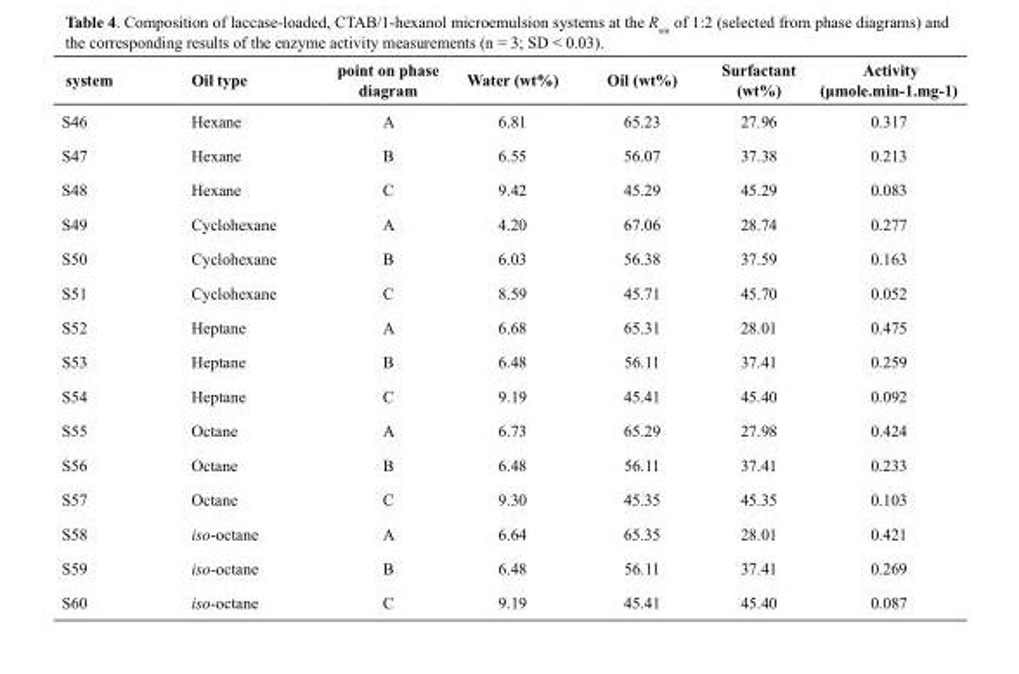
<table><thead><tr><td>Activity (μmole.min-1.mg-1)</td><td>Surfactant (wt%)</td><td>Oil (wt%)</td><td>Water (wt%)</td><td>point on phase diagram</td><td>Oil type</td><td>system</td></tr></thead><tbody><tr><td>0.317</td><td>27.96</td><td>65.23</td><td>6.81</td><td>A</td><td>Hexane</td><td>S46</td></tr><tr><td>0.213</td><td>37.38</td><td>56.07</td><td>6.55</td><td>B</td><td>Hexane</td><td>S47</td></tr><tr><td>0.083</td><td>45.29</td><td>45.29</td><td>9.42</td><td>C</td><td>Hexane</td><td>S48</td></tr><tr><td>0.277</td><td>28.74</td><td>67.06</td><td>4.20</td><td>A</td><td>Cyclohexane</td><td>S49</td></tr><tr><td>0.163</td><td>37.59</td><td>56.38</td><td>6.03</td><td>B</td><td>Cyclohexane</td><td>S50</td></tr><tr><td>0.052</td><td>45.70</td><td>45.71</td><td>8.59</td><td>C</td><td>Cyclohexane</td><td>S51</td></tr><tr><td>0.475</td><td>28.01</td><td>65.31</td><td>6.68</td><td>A</td><td>Heptane</td><td>S52</td></tr><tr><td>0.259</td><td>37.41</td><td>56.11</td><td>6.48</td><td>B</td><td>Heptane</td><td>S53</td></tr><tr><td>0.092</td><td>45.40</td><td>45.41</td><td>9.19</td><td>C</td><td>Heptane</td><td>S54</td></tr><tr><td>0.424</td><td>27.98</td><td>65.29</td><td>6.73</td><td>A</td><td>Octane</td><td>S55</td></tr><tr><td>0.233</td><td>37.41</td><td>56.11</td><td>6.48</td><td>B</td><td>Octane</td><td>S56</td></tr><tr><td>0.103</td><td>45.35</td><td>45.35</td><td>9.30</td><td>C</td><td>Octane</td><td>S57</td></tr><tr><td>0.421</td><td>28.01</td><td>65.35</td><td>6.64</td><td>A</td><td>iso-octane</td><td>S58</td></tr><tr><td>0.269</td><td>37.41</td><td>56.11</td><td>6.48</td><td>B</td><td>iso-octane</td><td>S59</td></tr><tr><td>0.087</td><td>45.40</td><td>45.41</td><td>9.19</td><td>C</td><td>iso-octane</td><td>S60</td></tr></tbody></table>